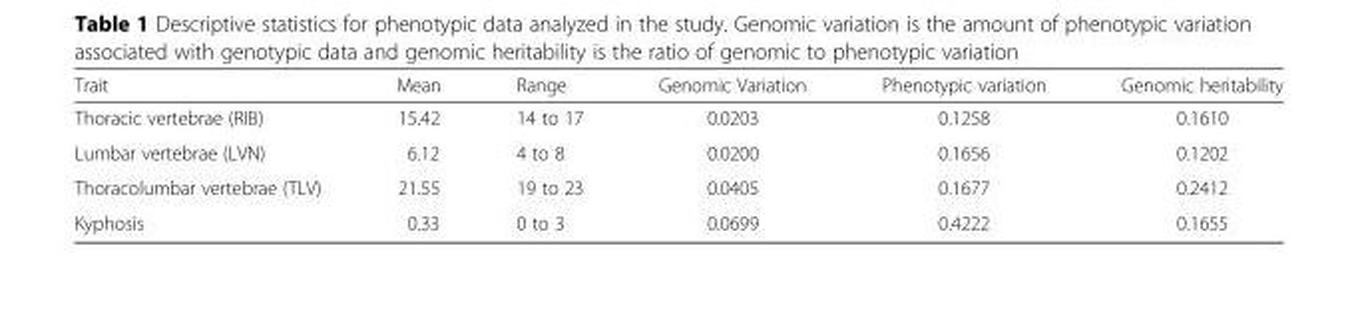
<table><thead><tr><td>Trait</td><td>Mean</td><td>Range</td><td>Genomic Variation</td><td>Phenotypic variation</td><td>Genomic heritability</td></tr></thead><tbody><tr><td>Thoracic vertebrae (RIB)</td><td>15.42</td><td>14 to 17</td><td>0.0203</td><td>0.1258</td><td>0.1610</td></tr><tr><td>Lumbar vertebrae (LVN)</td><td>6.12</td><td>4 to 8</td><td>0.0200</td><td>0.1656</td><td>0.1202</td></tr><tr><td>Thoracolumbar vertebrae (TLV)</td><td>21.55</td><td>19 to 23</td><td>0.0405</td><td>0.1677</td><td>0.2412</td></tr><tr><td>Kyphosis</td><td>0.33</td><td>0 to 3</td><td>0.0699</td><td>0.4222</td><td>0.1655</td></tr></tbody></table>